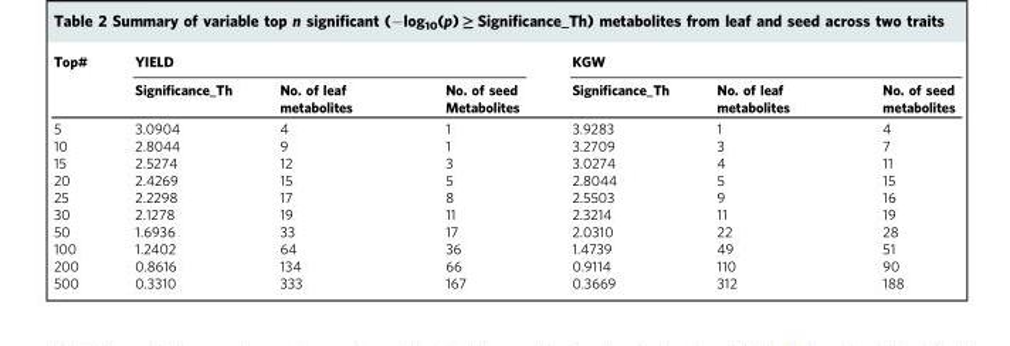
<table><thead><tr><td rowspan="2">Top#</td><td colspan="3">YIELD</td><td colspan="3">KGW</td></tr><tr><td>Significance_Th</td><td>No. of leaf metabolites</td><td>No. of seed Metabolites</td><td>Significance_Th</td><td>No. of leaf metabolites</td><td>No. of seed metabolites</td></tr></thead><tbody><tr><td>5</td><td>3.0904</td><td>4</td><td>1</td><td>3.9283</td><td>1</td><td>4</td></tr><tr><td>10</td><td>2.8044</td><td>9</td><td>1</td><td>3.2709</td><td>3</td><td>7</td></tr><tr><td>15</td><td>2.5274</td><td>12</td><td>3</td><td>3.0274</td><td>4</td><td>11</td></tr><tr><td>20</td><td>2.4269</td><td>15</td><td>5</td><td>2.8044</td><td>5</td><td>15</td></tr><tr><td>25</td><td>2.2298</td><td>17</td><td>8</td><td>2.5503</td><td>9</td><td>16</td></tr><tr><td>30</td><td>2.1278</td><td>19</td><td>11</td><td>2.3214</td><td>11</td><td>19</td></tr><tr><td>50</td><td>1.6936</td><td>33</td><td>17</td><td>2.0310</td><td>22</td><td>28</td></tr><tr><td>100</td><td>1.2402</td><td>64</td><td>36</td><td>1.4739</td><td>49</td><td>51</td></tr><tr><td>200</td><td>0.8616</td><td>134</td><td>66</td><td>0.9114</td><td>110</td><td>90</td></tr><tr><td>500</td><td>0.3310</td><td>333</td><td>167</td><td>0.3669</td><td>312</td><td>188</td></tr></tbody></table>